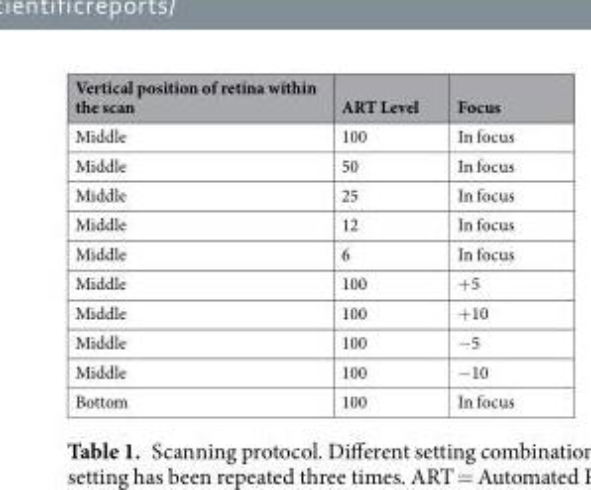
<table><thead><tr><td>Vertical position of retina within the scan</td><td>ART Level</td><td>Focus</td></tr></thead><tbody><tr><td>Middle</td><td>100</td><td>In focus</td></tr><tr><td>Middle</td><td>50</td><td>In focus</td></tr><tr><td>Middle</td><td>25</td><td>In focus</td></tr><tr><td>Middle</td><td>12</td><td>In focus</td></tr><tr><td>Middle</td><td>6</td><td>In focus</td></tr><tr><td>Middle</td><td>100</td><td>+5</td></tr><tr><td>Middle</td><td>100</td><td>+10</td></tr><tr><td>Middle</td><td>100</td><td>−5</td></tr><tr><td>Middle</td><td>100</td><td>−10</td></tr><tr><td>Bottom</td><td>100</td><td>In focus</td></tr></tbody></table>